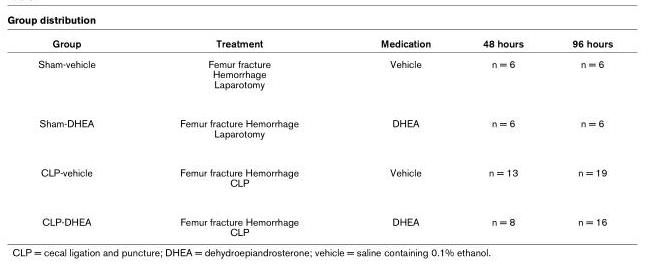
<table><thead><tr><td>Group</td><td>Treatment</td><td>Medication</td><td>48 hours</td><td>96 hours</td></tr></thead><tbody><tr><td>Sham-vehicle</td><td>Femur fracture Hemorrhage Laparotomy</td><td>Vehicle</td><td>n = 6</td><td>n = 6</td></tr><tr><td>Sham-DHEA</td><td>Femur fracture Hemorrhage Laparotomy</td><td>DHEA</td><td>n = 6</td><td>n = 6</td></tr><tr><td>CLP-vehicle</td><td>Femur fracture Hemorrhage CLP</td><td>Vehicle</td><td>n = 13</td><td>n = 19</td></tr><tr><td>CLP-DHEA</td><td>Femur fracture Hemorrhage CLP</td><td>DHEA</td><td>n = 8</td><td>n = 16</td></tr></tbody></table>